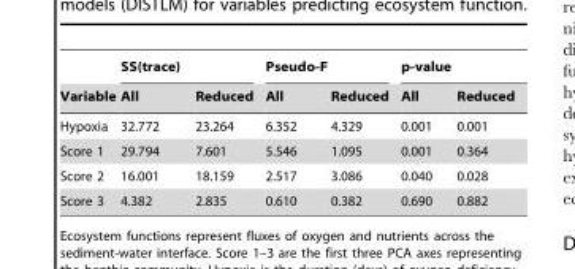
<table><thead><tr><td rowspan="2">Variable</td><td colspan="2">SS(trace)</td><td colspan="2">Pseudo-F</td><td colspan="2">p-value</td></tr><tr><td>All</td><td>Reduced</td><td>All</td><td>Reduced</td><td>All</td><td>Reduced</td></tr></thead><tbody><tr><td>Hypoxia</td><td>32.772</td><td>23.264</td><td>6.352</td><td>4.329</td><td>0.001</td><td>0.001</td></tr><tr><td>Score 1</td><td>29.794</td><td>7.601</td><td>5.546</td><td>1.095</td><td>0.001</td><td>0.364</td></tr><tr><td>Score 2</td><td>16.001</td><td>18.159</td><td>2.517</td><td>3.086</td><td>0.040</td><td>0.028</td></tr><tr><td>Score 3</td><td>4.382</td><td>2.835</td><td>0.610</td><td>0.382</td><td>0.690</td><td>0.882</td></tr></tbody></table>